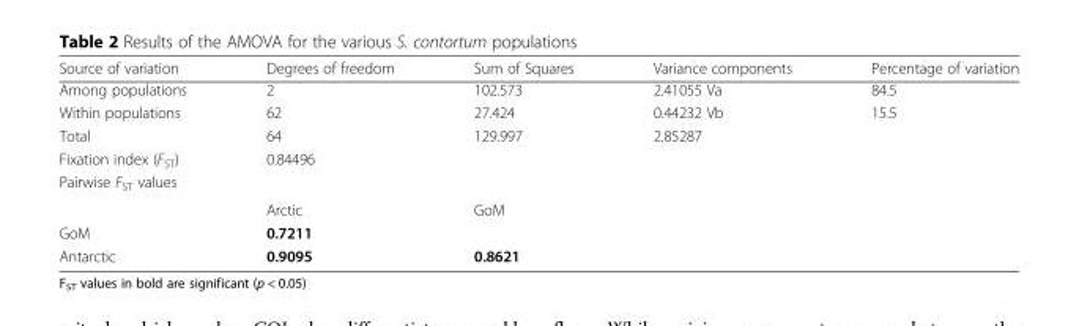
<table><thead><tr><td>Source of variation</td><td>Degrees of freedom</td><td>Sum of Squares</td><td>Variance components</td><td>Percentage of variation</td></tr></thead><tbody><tr><td>Among populations</td><td>2</td><td>102.573</td><td>2.41055 Va</td><td>84.5</td></tr><tr><td>Within populations</td><td>62</td><td>27.424</td><td>0.44232 Vb</td><td>15.5</td></tr><tr><td>Total</td><td>64</td><td>129.997</td><td>2.85287</td><td></td></tr><tr><td>Fixation index (F<sub>ST</sub>)</td><td>0.84496</td><td></td><td></td><td></td></tr><tr><td colspan="5">Pairwise F<sub>ST</sub> values</td></tr><tr><td></td><td>Arctic</td><td>GoM</td><td></td><td></td></tr><tr><td>GoM</td><td>0.7211</td><td></td><td></td><td></td></tr><tr><td>Antarctic</td><td>0.9095</td><td>0.8621</td><td></td><td></td></tr></tbody></table>